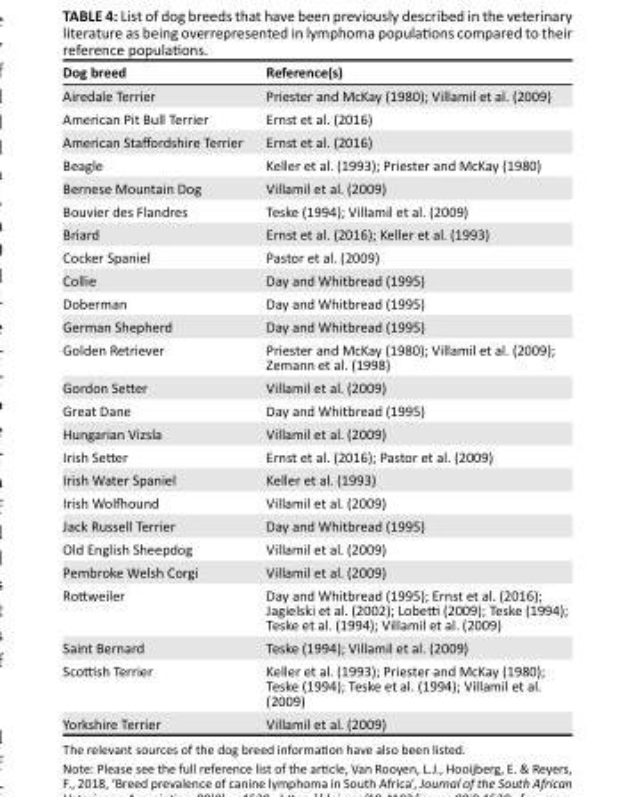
<table><thead><tr><td>Dog breed</td><td>Reference(s)</td></tr></thead><tbody><tr><td>Airedale Terrier</td><td>Priester and McKay (1980); Villamil et al. (2009)</td></tr><tr><td>American Pit Bull Terrier</td><td>Ernst et al. (2016)</td></tr><tr><td>American Staffordshire Terrier</td><td>Ernst et al. (2016)</td></tr><tr><td>Beagle</td><td>Keller et al. (1993); Priester and McKay (1980)</td></tr><tr><td>Bernese Mountain Dog</td><td>Villamil et al. (2009)</td></tr><tr><td>Bouvier des Flandres</td><td>Teske (1994); Villamil et al. (2009)</td></tr><tr><td>Briard</td><td>Ernst et al. (2016); Keller et al. (1993)</td></tr><tr><td>Cocker Spaniel</td><td>Pastor et al. (2009)</td></tr><tr><td>Collie</td><td>Day and Whitbread (1995)</td></tr><tr><td>Doberman</td><td>Day and Whitbread (1995)</td></tr><tr><td>German Shepherd</td><td>Day and Whitbread (1995)</td></tr><tr><td>Golden Retriever</td><td>Priester and McKay (1980); Villamil et al. (2009); Zemann et al. (1998)</td></tr><tr><td>Gordon Setter</td><td>Villamil et al. (2009)</td></tr><tr><td>Great Dane</td><td>Day and Whitbread (1995)</td></tr><tr><td>Hungarian Vizsla</td><td>Villamil et al. (2009)</td></tr><tr><td>Irish Setter</td><td>Ernst et al. (2016); Pastor et al. (2009)</td></tr><tr><td>Irish Water Spaniel</td><td>Keller et al. (1993)</td></tr><tr><td>Irish Wolfhound</td><td>Villamil et al. (2009)</td></tr><tr><td>Jack Russell Terrier</td><td>Day and Whitbread (1995)</td></tr><tr><td>Old English Sheepdog</td><td>Villamil et al. (2009)</td></tr><tr><td>Pembroke Welsh Corgi</td><td>Villamil et al. (2009)</td></tr><tr><td>Rottweiler</td><td>Day and Whitbread (1995); Ernst et al. (2016); Jagielski et al. (2002); Lobetti (2009); Teske (1994); Teske et al. (1994); Villamil et al. (2009)</td></tr><tr><td>Saint Bernard</td><td>Teske (1994); Villamil et al. (2009)</td></tr><tr><td>Scottish Terrier</td><td>Keller et al. (1993); Priester and McKay (1980); Teske (1994); Teske et al. (1994); Villamil et al. (2009)</td></tr><tr><td>Yorkshire Terrier</td><td>Villamil et al. (2009)</td></tr></tbody></table>